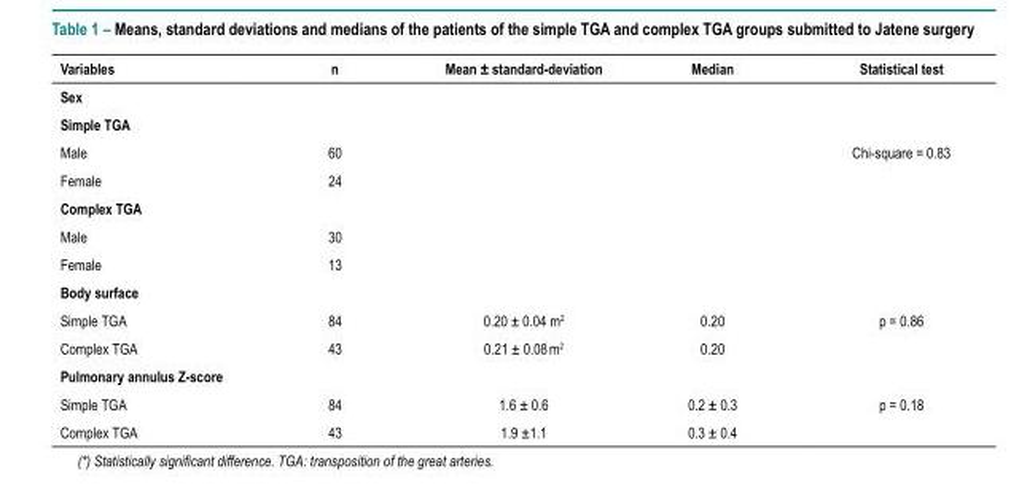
<table><thead><tr><td>Variables</td><td>n</td><td>Mean ± standard-deviation</td><td>Median</td><td>Statistical test</td></tr></thead><tbody><tr><td colspan="5">Sex</td></tr><tr><td colspan="5">Simple TGA</td></tr><tr><td>Male</td><td>60</td><td></td><td></td><td>Chi-square = 0.83</td></tr><tr><td>Female</td><td>24</td><td></td><td></td><td></td></tr><tr><td colspan="5">Complex TGA</td></tr><tr><td>Male</td><td>30</td><td></td><td></td><td></td></tr><tr><td>Female</td><td>13</td><td></td><td></td><td></td></tr><tr><td colspan="5">Body surface</td></tr><tr><td>Simple TGA</td><td>84</td><td>0.20 ± 0.04 m<sup>2</sup></td><td>0.20</td><td>p = 0.86</td></tr><tr><td>Complex TGA</td><td>43</td><td>0.21 ± 0.08 m<sup>2</sup></td><td>0.20</td><td></td></tr><tr><td colspan="5">Pulmonary annulus Z-score</td></tr><tr><td>Simple TGA</td><td>84</td><td>1.6 ± 0.6</td><td>0.2 ± 0.3</td><td>p = 0.18</td></tr><tr><td>Complex TGA</td><td>43</td><td>1.9 ±1.1</td><td>0.3 ± 0.4</td><td></td></tr></tbody></table>